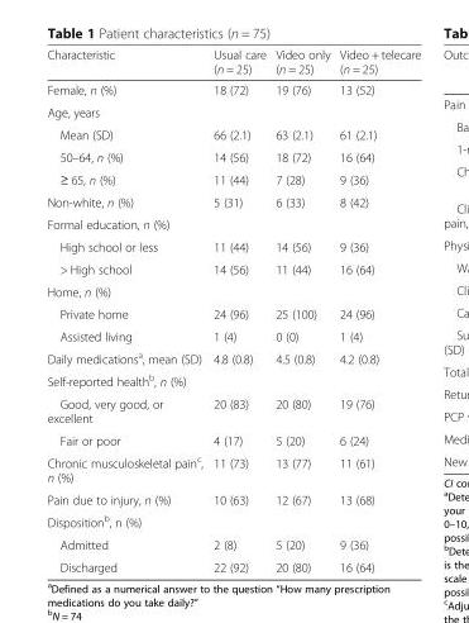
<table><thead><tr><td>Characteristic</td><td>Usual care (n = 25)</td><td>Video only (n = 25)</td><td>Video + telecare (n = 25)</td></tr></thead><tbody><tr><td>Female, n (%)</td><td>18 (72)</td><td>19 (76)</td><td>13 (52)</td></tr><tr><td colspan="4">Age, years</td></tr><tr><td>Mean (SD)</td><td>66 (2.1)</td><td>63 (2.1)</td><td>61 (2.1)</td></tr><tr><td>50–64, n (%)</td><td>14 (56)</td><td>18 (72)</td><td>16 (64)</td></tr><tr><td>≥ 65, n (%)</td><td>11 (44)</td><td>7 (28)</td><td>9 (36)</td></tr><tr><td>Non-white, n (%)</td><td>5 (31)</td><td>6 (33)</td><td>8 (42)</td></tr><tr><td colspan="4">Formal education, n (%)</td></tr><tr><td>High school or less</td><td>11 (44)</td><td>14 (56)</td><td>9 (36)</td></tr><tr><td>&gt; High school</td><td>14 (56)</td><td>11 (44)</td><td>16 (64)</td></tr><tr><td colspan="4">Home, n (%)</td></tr><tr><td>Private home</td><td>24 (96)</td><td>25 (100)</td><td>24 (96)</td></tr><tr><td>Assisted living</td><td>1 (4)</td><td>0 (0)</td><td>1 (4)</td></tr><tr><td>Daily medications<sup>a</sup>, mean (SD)</td><td>4.8 (0.8)</td><td>4.5 (0.8)</td><td>4.2 (0.8)</td></tr><tr><td colspan="4">Self-reported health<sup>b</sup>, n (%)</td></tr><tr><td>Good, very good, or excellent</td><td>20 (83)</td><td>20 (80)</td><td>19 (76)</td></tr><tr><td>Fair or poor</td><td>4 (17)</td><td>5 (20)</td><td>6 (24)</td></tr><tr><td>Chronic musculoskeletal pain<sup>c</sup>, n (%)</td><td>11 (73)</td><td>13 (77)</td><td>11 (61)</td></tr><tr><td>Pain due to injury, n (%)</td><td>10 (63)</td><td>12 (67)</td><td>13 (68)</td></tr><tr><td colspan="4">Disposition<sup>b</sup>, n (%)</td></tr><tr><td>Admitted</td><td>2 (8)</td><td>5 (20)</td><td>9 (36)</td></tr><tr><td>Discharged</td><td>22 (92)</td><td>20 (80)</td><td>16 (64)</td></tr></tbody></table>